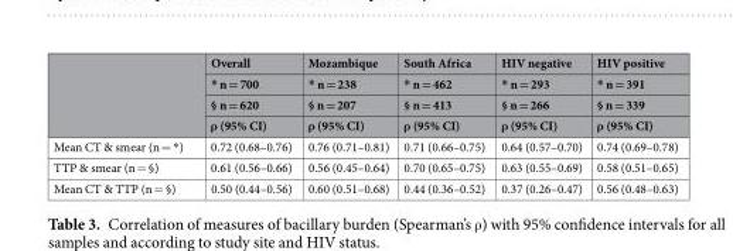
<table><thead><tr><td rowspan="4"></td><td rowspan="4">Overall * n = 700 § n = 620 ρ (95% CI)</td><td rowspan="4">Mozambique * n = 238 § n = 207 ρ (95% CI)</td><td rowspan="4">South Africa * n = 462 § n = 413 ρ (95% CI)</td><td rowspan="4">HIV negative * n = 293 § n = 266 ρ (95% CI)</td><td rowspan="4">HIV positive * n = 391 § n = 339 ρ (95% CI)</td></tr><tr></tr><tr></tr><tr></tr></thead><tbody><tr><td>Mean CT &amp; smear (n = *)</td><td>0.72 (0.68–0.76)</td><td>0.76 (0.71–0.81)</td><td>0.71 (0.66–0.75)</td><td>0.64 (0.57–0.70)</td><td>0.74 (0.69–0.78)</td></tr><tr><td>TTP &amp; smear (n = §)</td><td>0.61 (0.56–0.66)</td><td>0.56 (0.45–0.64)</td><td>0.70 (0.65–0.75)</td><td>0.63 (0.55–0.69)</td><td>0.58 (0.51–0.65)</td></tr><tr><td>Mean CT &amp; TTP (n = §)</td><td>0.50 (0.44–0.56)</td><td>0.60 (0.51–0.68)</td><td>0.44 (0.36–0.52)</td><td>0.37 (0.26–0.47)</td><td>0.56 (0.48–0.63)</td></tr></tbody></table>